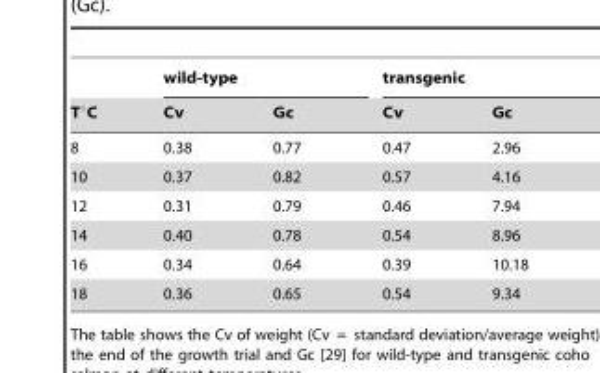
<table><thead><tr><td rowspan="2">T°C</td><td colspan="2">wild-type</td><td colspan="2">transgenic</td></tr><tr><td>Cv</td><td>Gc</td><td>Cv</td><td>Gc</td></tr></thead><tbody><tr><td>8</td><td>0.38</td><td>0.77</td><td>0.47</td><td>2.96</td></tr><tr><td>10</td><td>0.37</td><td>0.82</td><td>0.57</td><td>4.16</td></tr><tr><td>12</td><td>0.31</td><td>0.79</td><td>0.46</td><td>7.94</td></tr><tr><td>14</td><td>0.40</td><td>0.78</td><td>0.54</td><td>8.96</td></tr><tr><td>16</td><td>0.34</td><td>0.64</td><td>0.39</td><td>10.18</td></tr><tr><td>18</td><td>0.36</td><td>0.65</td><td>0.54</td><td>9.34</td></tr></tbody></table>